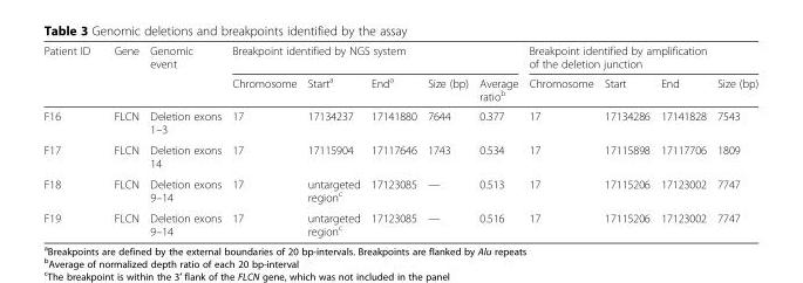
<table><thead><tr><td rowspan="2">Patient ID</td><td rowspan="2">Gene</td><td rowspan="2">Genomic event</td><td colspan="5">Breakpoint identified by NGS system</td><td colspan="4">Breakpoint identified by amplification of the deletion junction</td></tr><tr><td>Chromosome</td><td>Start<sup>a</sup></td><td>End<sup>a</sup></td><td>Size (bp)</td><td>Average ratio<sup>b</sup></td><td>Chromosome</td><td>Start</td><td>End</td><td>Size (bp)</td></tr></thead><tbody><tr><td>F16</td><td>FLCN</td><td>Deletion exons 1–3</td><td>17</td><td>17134237</td><td>17141880</td><td>7644</td><td>0.377</td><td>17</td><td>17134286</td><td>17141828</td><td>7543</td></tr><tr><td>F17</td><td>FLCN</td><td>Deletion exons 14</td><td>17</td><td>17115904</td><td>17117646</td><td>1743</td><td>0.534</td><td>17</td><td>17115898</td><td>17117706</td><td>1809</td></tr><tr><td>F18</td><td>FLCN</td><td>Deletion exons 9–14</td><td>17</td><td>untargeted region<sup>c</sup></td><td>17123085</td><td>—</td><td>0.513</td><td>17</td><td>17115206</td><td>17123002</td><td>7747</td></tr><tr><td>F19</td><td>FLCN</td><td>Deletion exons 9–14</td><td>17</td><td>untargeted region<sup>c</sup></td><td>17123085</td><td>—</td><td>0.516</td><td>17</td><td>17115206</td><td>17123002</td><td>7747</td></tr></tbody></table>